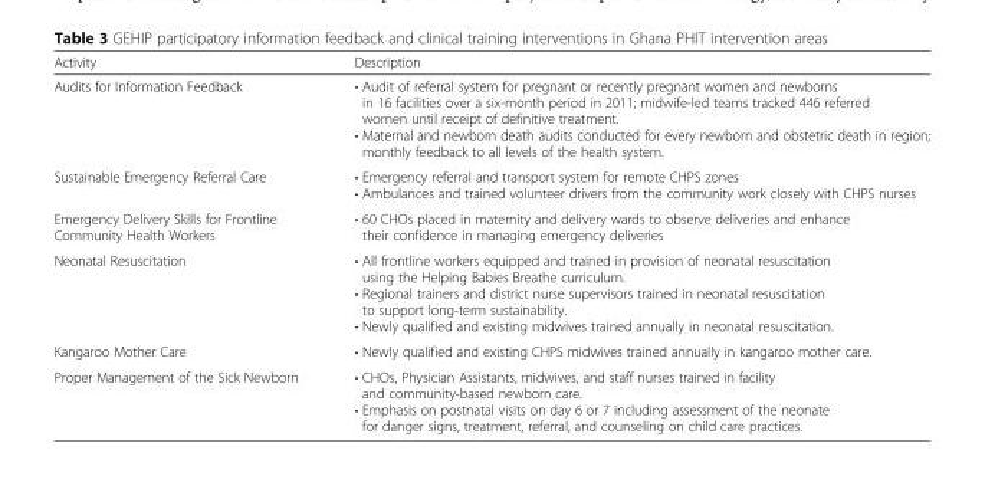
<table><thead><tr><td>Activity</td><td>Description</td></tr></thead><tbody><tr><td>Audits for Information Feedback</td><td>• Audit of referral system for pregnant or recently pregnant women and newborns in 16 facilities over a six-month period in 2011; midwife-led teams tracked 446 referred women until receipt of definitive treatment. • Maternal and newborn death audits conducted for every newborn and obstetric death in region; monthly feedback to all levels of the health system.</td></tr><tr><td>Sustainable Emergency Referral Care</td><td>• Emergency referral and transport system for remote CHPS zones • Ambulances and trained volunteer drivers from the community work closely with CHPS nurses</td></tr><tr><td>Emergency Delivery Skills for Frontline Community Health Workers</td><td>• 60 CHOs placed in maternity and delivery wards to observe deliveries and enhance their confidence in managing emergency deliveries</td></tr><tr><td>Neonatal Resuscitation</td><td>• All frontline workers equipped and trained in provision of neonatal resuscitation using the Helping Babies Breathe curriculum. • Regional trainers and district nurse supervisors trained in neonatal resuscitation to support long-term sustainability. • Newly qualified and existing midwives trained annually in neonatal resuscitation.</td></tr><tr><td>Kangaroo Mother Care</td><td>• Newly qualified and existing CHPS midwives trained annually in kangaroo mother care.</td></tr><tr><td>Proper Management of the Sick Newborn</td><td>• CHOs, Physician Assistants, midwives, and staff nurses trained in facility and community-based newborn care. • Emphasis on postnatal visits on day 6 or 7 including assessment of the neonate for danger signs, treatment, referral, and counseling on child care practices.</td></tr></tbody></table>